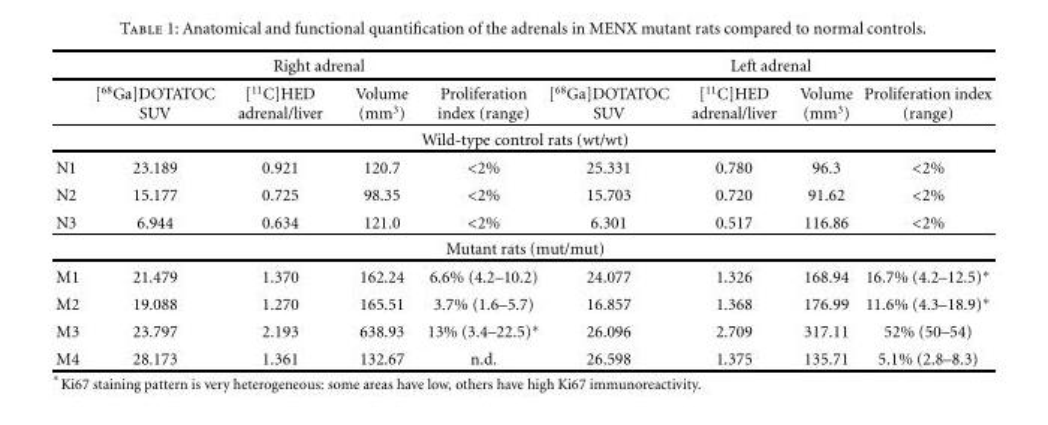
<table><thead><tr><td rowspan="2"></td><td colspan="4">Right adrenal</td><td colspan="4">Left adrenal</td></tr><tr><td>[<sup>68</sup>Ga]DOTATOC SUV</td><td>[<sup>11</sup>C]HED adrenal/liver</td><td>Volume (mm<sup>3</sup>)</td><td>Proliferation index (range)</td><td>[<sup>68</sup>Ga]DOTATOC SUV</td><td>[<sup>11</sup>C]HED adrenal/liver</td><td>Volume (mm<sup>3</sup>)</td><td>Proliferation index (range)</td></tr></thead><tbody><tr><td colspan="9">Wild-type control rats (wt/wt)</td></tr><tr><td>N1</td><td>23.189</td><td>0.921</td><td>120.7</td><td>&lt;2%</td><td>25.331</td><td>0.780</td><td>96.3</td><td>&lt;2%</td></tr><tr><td>N2</td><td>15.177</td><td>0.725</td><td>98.35</td><td>&lt;2%</td><td>15.703</td><td>0.720</td><td>91.62</td><td>&lt;2%</td></tr><tr><td>N3</td><td>6.944</td><td>0.634</td><td>121.0</td><td>&lt;2%</td><td>6.301</td><td>0.517</td><td>116.86</td><td>&lt;2%</td></tr><tr><td colspan="9">Mutant rats (mut/mut)</td></tr><tr><td>M1</td><td>21.479</td><td>1.370</td><td>162.24</td><td>6.6% (4.2–10.2)</td><td>24.077</td><td>1.326</td><td>168.94</td><td>16.7% (4.2–12.5)∗</td></tr><tr><td>M2</td><td>19.088</td><td>1.270</td><td>165.51</td><td>3.7% (1.6–5.7)</td><td>16.857</td><td>1.368</td><td>176.99</td><td>11.6% (4.3–18.9)∗</td></tr><tr><td>M3</td><td>23.797</td><td>2.193</td><td>638.93</td><td>13% (3.4–22.5)∗</td><td>26.096</td><td>2.709</td><td>317.11</td><td>52% (50–54)</td></tr><tr><td>M4</td><td>28.173</td><td>1.361</td><td>132.67</td><td>n.d.</td><td>26.598</td><td>1.375</td><td>135.71</td><td>5.1% (2.8–8.3)</td></tr></tbody></table>